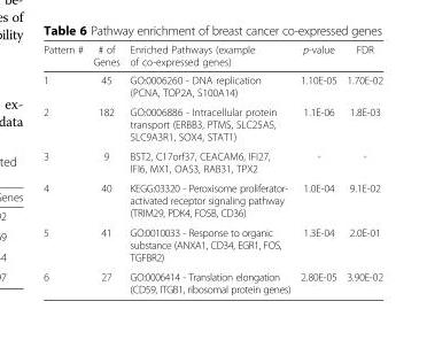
<table><thead><tr><td>Pattern #</td><td># of Genes</td><td>Enriched Pathways (example of co-expressed genes)</td><td>p-value</td><td>FDR</td></tr></thead><tbody><tr><td>1</td><td>45</td><td>GO:0006260 - DNA replication (PCNA, TOP2A, S100A14)</td><td>1.10E-05</td><td>1.70E-02</td></tr><tr><td>2</td><td>182</td><td>GO:0006886 - Intracellular protein transport (ERBB3, PTMS, SLC25A5, SLC9A3R1, SOX4, STAT1)</td><td>1.1E-06</td><td>1.8E-03</td></tr><tr><td>3</td><td>9</td><td>BST2, C17orf37, CEACAM6, IFI27, IFI6, MX1, OAS3, RAB31, TPX2</td><td>-</td><td>-</td></tr><tr><td>4</td><td>40</td><td>KEGG:03320 - Peroxisome proliferator- activated receptor signaling pathway (TRIM29, PDK4, FOSB, CD36)</td><td>1.0E-04</td><td>9.1E-02</td></tr><tr><td>5</td><td>41</td><td>GO:0010033 - Response to organic substance (ANXA1, CD34, EGR1, FOS, TGFBR2)</td><td>1.3E-04</td><td>2.0E-01</td></tr><tr><td>6</td><td>27</td><td>GO:0006414 - Translation elongation (CD59, ITGB1, ribosomal protein genes)</td><td>2.80E-05</td><td>3.90E-02</td></tr></tbody></table>